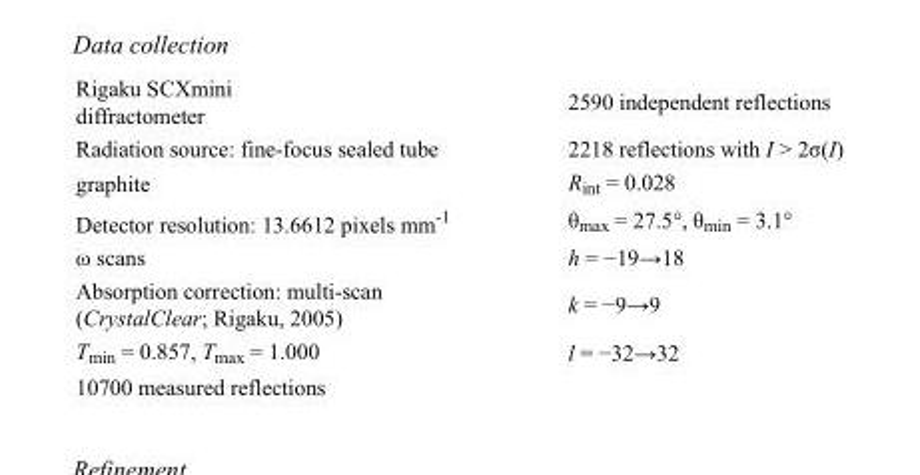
<table><tbody><tr><td>Rigaku SCXmini diffractometer</td><td>2590 independent reflections</td></tr><tr><td>Radiation source: fine-focus sealed tube</td><td>2218 reflections with I &gt; 2σ(I)</td></tr><tr><td>graphite</td><td>R<sub>int</sub> = 0.028</td></tr><tr><td>Detector resolution: 13.6612 pixels mm<sup>-1</sup></td><td>θ<sub>max</sub> = 27.5°, θ<sub>min</sub> = 3.1°</td></tr><tr><td>ω scans</td><td>h = −19→18</td></tr><tr><td>Absorption correction: multi-scan (CrystalClear; Rigaku, 2005)</td><td>k = −9→9</td></tr><tr><td>T<sub>min</sub> = 0.857, T<sub>max</sub> = 1.000</td><td>l = −32→32</td></tr><tr><td>10700 measured reflections</td><td></td></tr></tbody></table>